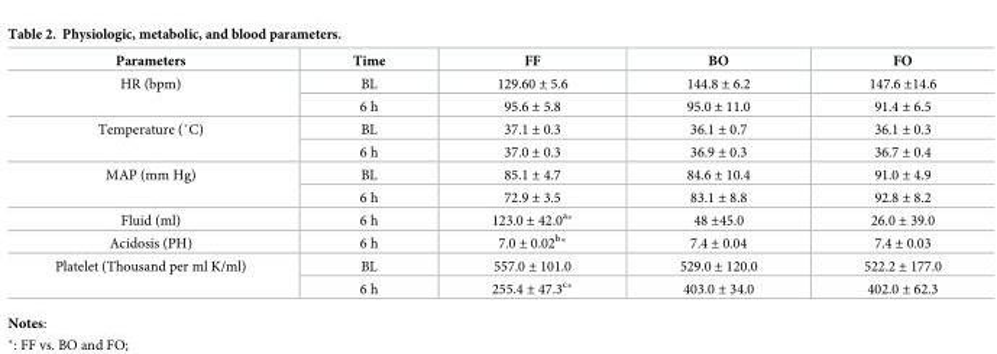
<table><thead><tr><td>Parameters</td><td>Time</td><td>FF</td><td>BO</td><td>FO</td></tr></thead><tbody><tr><td rowspan="2">HR (bpm)</td><td>BL</td><td>129.60 ± 5.6</td><td>144.8 ± 6.2</td><td>147.6 ±14.6</td></tr><tr><td>6 h</td><td>95.6 ± 5.8</td><td>95.0 ± 11.0</td><td>91.4 ± 6.5</td></tr><tr><td rowspan="2">Temperature (˚C)</td><td>BL</td><td>37.1 ± 0.3</td><td>36.1 ± 0.7</td><td>36.1 ± 0.3</td></tr><tr><td>6 h</td><td>37.0 ± 0.3</td><td>36.9 ± 0.3</td><td>36.7 ± 0.4</td></tr><tr><td rowspan="2">MAP (mm Hg)</td><td>BL</td><td>85.1 ± 4.7</td><td>84.6 ± 10.4</td><td>91.0 ± 4.9</td></tr><tr><td>6 h</td><td>72.9 ± 3.5</td><td>83.1 ± 8.8</td><td>92.8 ± 8.2</td></tr><tr><td>Fluid (ml)</td><td>6 h</td><td>123.0 ± 42.0<sup>a</sup>*</td><td>48 ±45.0</td><td>26.0 ± 39.0</td></tr><tr><td>Acidosis (PH)</td><td>6 h</td><td>7.0 ± 0.02<sup>b</sup>*</td><td>7.4 ± 0.04</td><td>7.4 ± 0.03</td></tr><tr><td rowspan="2">Platelet (Thousand per ml K/ml)</td><td>BL</td><td>557.0 ± 101.0</td><td>529.0 ± 120.0</td><td>522.2 ± 177.0</td></tr><tr><td>6 h</td><td>255.4 ± 47.3<sup>c</sup>*</td><td>403.0 ± 34.0</td><td>402.0 ± 62.3</td></tr></tbody></table>